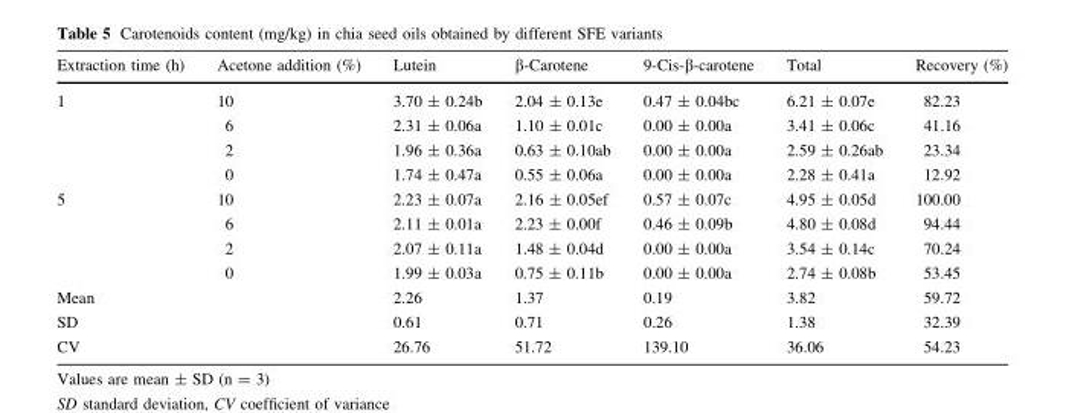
<table><thead><tr><td>Extraction time (h)</td><td>Acetone addition (%)</td><td>Lutein</td><td>β-Carotene</td><td>9-Cis-β-carotene</td><td>Total</td><td>Recovery (%)</td></tr></thead><tbody><tr><td rowspan="4">1</td><td>10</td><td>3.70 ± 0.24b</td><td>2.04 ± 0.13e</td><td>0.47 ± 0.04bc</td><td>6.21 ± 0.07e</td><td>82.23</td></tr><tr><td>6</td><td>2.31 ± 0.06a</td><td>1.10 ± 0.01c</td><td>0.00 ± 0.00a</td><td>3.41 ± 0.06c</td><td>41.16</td></tr><tr><td>2</td><td>1.96 ± 0.36a</td><td>0.63 ± 0.10ab</td><td>0.00 ± 0.00a</td><td>2.59 ± 0.26ab</td><td>23.34</td></tr><tr><td>0</td><td>1.74 ± 0.47a</td><td>0.55 ± 0.06a</td><td>0.00 ± 0.00a</td><td>2.28 ± 0.41a</td><td>12.92</td></tr><tr><td rowspan="4">5</td><td>10</td><td>2.23 ± 0.07a</td><td>2.16 ± 0.05ef</td><td>0.57 ± 0.07c</td><td>4.95 ± 0.05d</td><td>100.00</td></tr><tr><td>6</td><td>2.11 ± 0.01a</td><td>2.23 ± 0.00f</td><td>0.46 ± 0.09b</td><td>4.80 ± 0.08d</td><td>94.44</td></tr><tr><td>2</td><td>2.07 ± 0.11a</td><td>1.48 ± 0.04d</td><td>0.00 ± 0.00a</td><td>3.54 ± 0.14c</td><td>70.24</td></tr><tr><td>0</td><td>1.99 ± 0.03a</td><td>0.75 ± 0.11b</td><td>0.00 ± 0.00a</td><td>2.74 ± 0.08b</td><td>53.45</td></tr><tr><td colspan="2">Mean</td><td>2.26</td><td>1.37</td><td>0.19</td><td>3.82</td><td>59.72</td></tr><tr><td colspan="2">SD</td><td>0.61</td><td>0.71</td><td>0.26</td><td>1.38</td><td>32.39</td></tr><tr><td colspan="2">CV</td><td>26.76</td><td>51.72</td><td>139.10</td><td>36.06</td><td>54.23</td></tr></tbody></table>